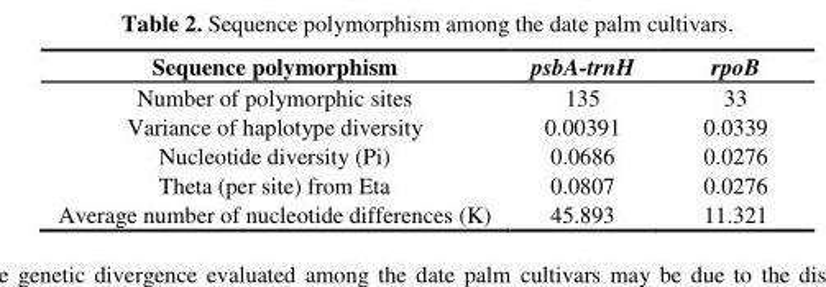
<table><thead><tr><td>Sequence polymorphism</td><td>psbA-trnH</td><td>rpoB</td></tr></thead><tbody><tr><td>Number of polymorphic sites</td><td>135</td><td>33</td></tr><tr><td>Variance of haplotype diversity</td><td>0.00391</td><td>0.0339</td></tr><tr><td>Nucleotide diversity (Pi)</td><td>0.0686</td><td>0.0276</td></tr><tr><td>Theta (per site) from Eta</td><td>0.0807</td><td>0.0276</td></tr><tr><td>Average number of nucleotide differences (K)</td><td>45.893</td><td>11.321</td></tr></tbody></table>